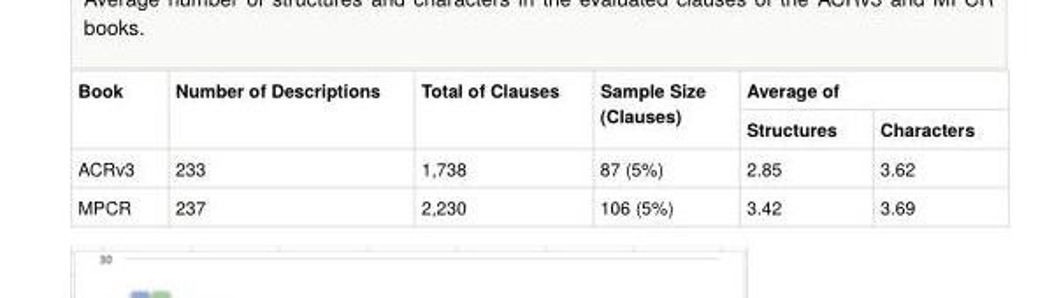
<table><tbody><tr><td rowspan="2">Book</td><td rowspan="2">Number of Descriptions</td><td rowspan="2">Total of Clauses</td><td rowspan="2">Sample Size (Clauses)</td><td colspan="2">Average of</td></tr><tr><td>Structures</td><td>Characters</td></tr><tr><td>ACRv3</td><td>233</td><td>1,738</td><td>87 (5%)</td><td>2.85</td><td>3.62</td></tr><tr><td>MPCR</td><td>237</td><td>2,230</td><td>106 (5%)</td><td>3.42</td><td>3.69</td></tr></tbody></table>